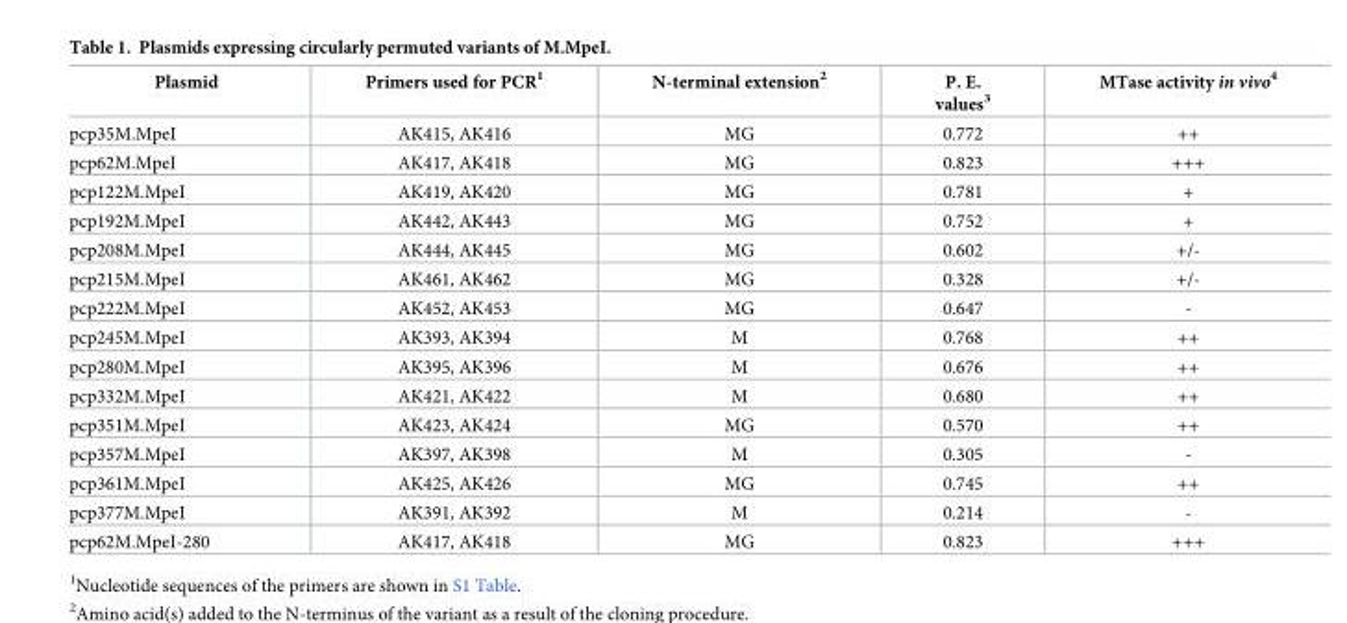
<table><thead><tr><td>Plasmid</td><td>Primers used for PCR<sup>1</sup></td><td>N-terminal extension<sup>2</sup></td><td>P. E. values<sup>3</sup></td><td>MTase activity in vivo<sup>4</sup></td></tr></thead><tbody><tr><td>pcp35M.MpeI</td><td>AK415, AK416</td><td>MG</td><td>0.772</td><td>++</td></tr><tr><td>pcp62M.MpeI</td><td>AK417, AK418</td><td>MG</td><td>0.823</td><td>+++</td></tr><tr><td>pcp122M.MpeI</td><td>AK419, AK420</td><td>MG</td><td>0.781</td><td>+</td></tr><tr><td>pcp192M.MpeI</td><td>AK442, AK443</td><td>MG</td><td>0.752</td><td>+</td></tr><tr><td>pcp208M.MpeI</td><td>AK444, AK445</td><td>MG</td><td>0.602</td><td>+/-</td></tr><tr><td>pcp215M.MpeI</td><td>AK461, AK462</td><td>MG</td><td>0.328</td><td>+/-</td></tr><tr><td>pcp222M.MpeI</td><td>AK452, AK453</td><td>MG</td><td>0.647</td><td>-</td></tr><tr><td>pcp245M.MpeI</td><td>AK393, AK394</td><td>M</td><td>0.768</td><td>++</td></tr><tr><td>pcp280M.MpeI</td><td>AK395, AK396</td><td>M</td><td>0.676</td><td>++</td></tr><tr><td>pcp332M.MpeI</td><td>AK421, AK422</td><td>M</td><td>0.680</td><td>++</td></tr><tr><td>pcp351M.MpeI</td><td>AK423, AK424</td><td>MG</td><td>0.570</td><td>++</td></tr><tr><td>pcp357M.MpeI</td><td>AK397, AK398</td><td>M</td><td>0.305</td><td>-</td></tr><tr><td>pcp361M.MpeI</td><td>AK425, AK426</td><td>MG</td><td>0.745</td><td>++</td></tr><tr><td>pcp377M.MpeI</td><td>AK391, AK392</td><td>M</td><td>0.214</td><td>-</td></tr><tr><td>pcp62M.MpeI-280</td><td>AK417, AK418</td><td>MG</td><td>0.823</td><td>+++</td></tr></tbody></table>